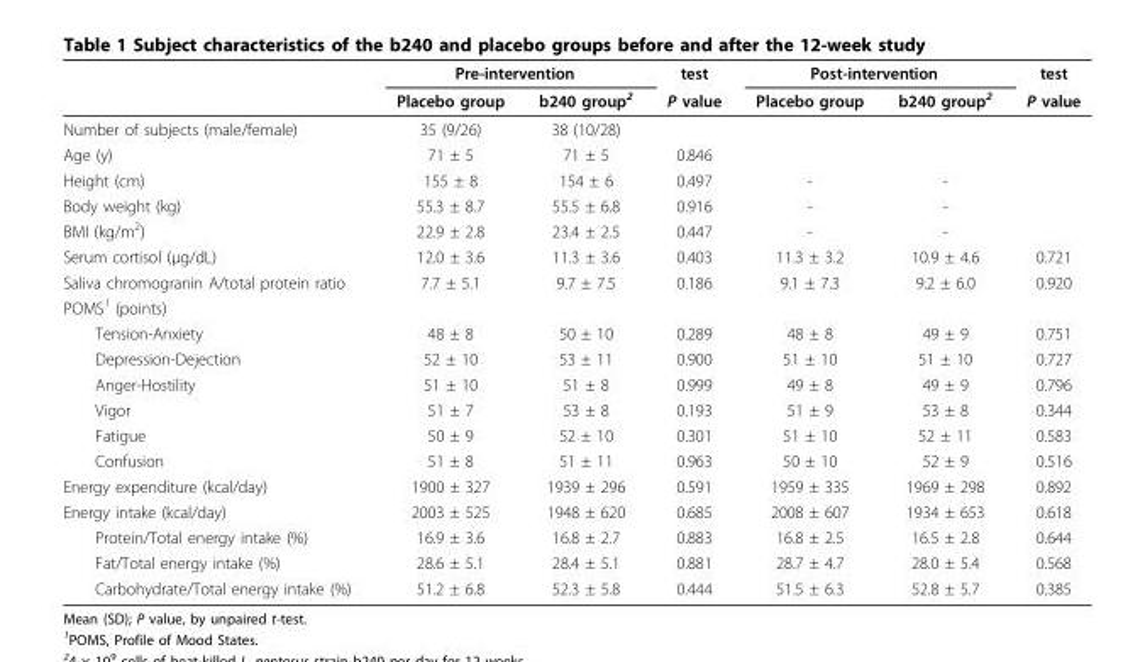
<table><thead><tr><td rowspan="2"></td><td colspan="2">Pre-intervention</td><td rowspan="2">test P value</td><td colspan="2">Post-intervention</td><td rowspan="2">test P value</td></tr><tr><td>Placebo group</td><td>b240 group<sup>2</sup></td><td>Placebo group</td><td>b240 group<sup>2</sup></td></tr></thead><tbody><tr><td>Number of subjects (male/female)</td><td>35 (9/26)</td><td>38 (10/28)</td><td></td><td></td><td></td><td></td></tr><tr><td>Age (y)</td><td>71 ± 5</td><td>71 ± 5</td><td>0.846</td><td></td><td></td><td></td></tr><tr><td>Height (cm)</td><td>155 ± 8</td><td>154 ± 6</td><td>0.497</td><td>-</td><td>-</td><td></td></tr><tr><td>Body weight (kg)</td><td>55.3 ± 8.7</td><td>55.5 ± 6.8</td><td>0.916</td><td>-</td><td>-</td><td></td></tr><tr><td>BMI (kg/m<sup>2</sup>)</td><td>22.9 ± 2.8</td><td>23.4 ± 2.5</td><td>0.447</td><td>-</td><td>-</td><td></td></tr><tr><td>Serum cortisol (μg/dL)</td><td>12.0 ± 3.6</td><td>11.3 ± 3.6</td><td>0.403</td><td>11.3 ± 3.2</td><td>10.9 ± 4.6</td><td>0.721</td></tr><tr><td>Saliva chromogranin A/total protein ratio</td><td>7.7 ± 5.1</td><td>9.7 ± 7.5</td><td>0.186</td><td>9.1 ± 7.3</td><td>9.2 ± 6.0</td><td>0.920</td></tr><tr><td colspan="7">POMS<sup>1</sup> (points)</td></tr><tr><td>Tension-Anxiety</td><td>48 ± 8</td><td>50 ± 10</td><td>0.289</td><td>48 ± 8</td><td>49 ± 9</td><td>0.751</td></tr><tr><td>Depression-Dejection</td><td>52 ± 10</td><td>53 ± 11</td><td>0.900</td><td>51 ± 10</td><td>51 ± 10</td><td>0.727</td></tr><tr><td>Anger-Hostility</td><td>51 ± 10</td><td>51 ± 8</td><td>0.999</td><td>49 ± 8</td><td>49 ± 9</td><td>0.796</td></tr><tr><td>Vigor</td><td>51 ± 7</td><td>53 ± 8</td><td>0.193</td><td>51 ± 9</td><td>53 ± 8</td><td>0.344</td></tr><tr><td>Fatigue</td><td>50 ± 9</td><td>52 ± 10</td><td>0.301</td><td>51 ± 10</td><td>52 ± 11</td><td>0.583</td></tr><tr><td>Confusion</td><td>51 ± 8</td><td>51 ± 11</td><td>0.963</td><td>50 ± 10</td><td>52 ± 9</td><td>0.516</td></tr><tr><td>Energy expenditure (kcal/day)</td><td>1900 ± 327</td><td>1939 ± 296</td><td>0.591</td><td>1959 ± 335</td><td>1969 ± 298</td><td>0.892</td></tr><tr><td>Energy intake (kcal/day)</td><td>2003 ± 525</td><td>1948 ± 620</td><td>0.685</td><td>2008 ± 607</td><td>1934 ± 653</td><td>0.618</td></tr><tr><td>Protein/Total energy intake (%)</td><td>16.9 ± 3.6</td><td>16.8 ± 2.7</td><td>0.883</td><td>16.8 ± 2.5</td><td>16.5 ± 2.8</td><td>0.644</td></tr><tr><td>Fat/Total energy intake (%)</td><td>28.6 ± 5.1</td><td>28.4 ± 5.1</td><td>0.881</td><td>28.7 ± 4.7</td><td>28.0 ± 5.4</td><td>0.568</td></tr><tr><td>Carbohydrate/Total energy intake (%)</td><td>51.2 ± 6.8</td><td>52.3 ± 5.8</td><td>0.444</td><td>51.5 ± 6.3</td><td>52.8 ± 5.7</td><td>0.385</td></tr></tbody></table>